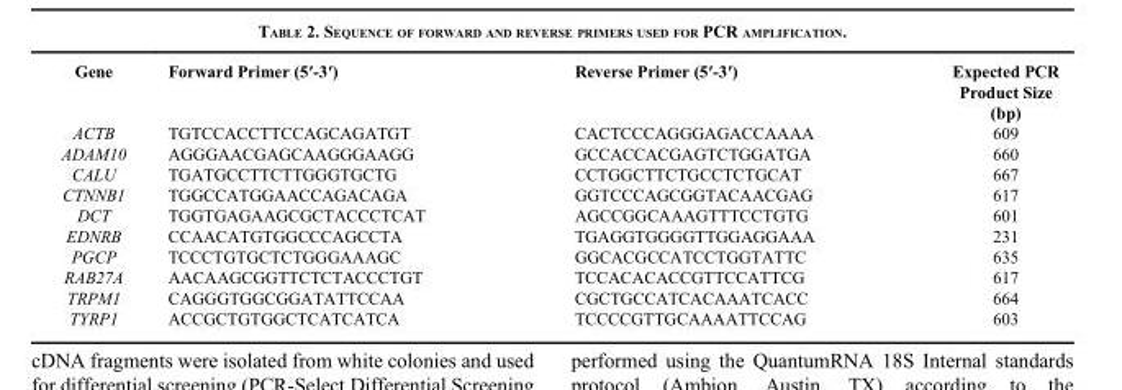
<table><thead><tr><td>Gene</td><td>Forward Primer (5′-3′)</td><td>Reverse Primer (5′-3′)</td><td>Expected PCR Product Size (bp)</td></tr></thead><tbody><tr><td>ACTB</td><td>TGTCCACCTTCCAGCAGATGT</td><td>CACTCCCAGGGAGACCAAAA</td><td>609</td></tr><tr><td>ADAM10</td><td>AGGGAACGAGCAAGGGAAGG</td><td>GCCACCACGAGTCTGGATGA</td><td>660</td></tr><tr><td>CALU</td><td>TGATGCCTTCTTGGGTGCTG</td><td>CCTGGCTTCTGCCTCTGCAT</td><td>667</td></tr><tr><td>CTNNB1</td><td>TGGCCATGGAACCAGACAGA</td><td>GGTCCCAGCGGTACAACGAG</td><td>617</td></tr><tr><td>DCT</td><td>TGGTGAGAAGCGCTACCCTCAT</td><td>AGCCGGCAAAGTTTCCTGTG</td><td>601</td></tr><tr><td>EDNRB</td><td>CCAACATGTGGCCCAGCCTA</td><td>TGAGGTGGGGTTGGAGGAAA</td><td>231</td></tr><tr><td>PGCP</td><td>TCCCTGTGCTCTGGGAAAGC</td><td>GGCACGCCATCCTGGTATTC</td><td>635</td></tr><tr><td>RAB27A</td><td>AACAAGCGGTTCTCTACCCTGT</td><td>TCCACACACCGTTCCATTCG</td><td>617</td></tr><tr><td>TRPM1</td><td>CAGGGTGGCGGATATTCCAA</td><td>CGCTGCCATCACAAATCACC</td><td>664</td></tr><tr><td>TYRP1</td><td>ACCGCTGTGGCTCATCATCA</td><td>TCCCCGTTGCAAAATTCCAG</td><td>603</td></tr></tbody></table>